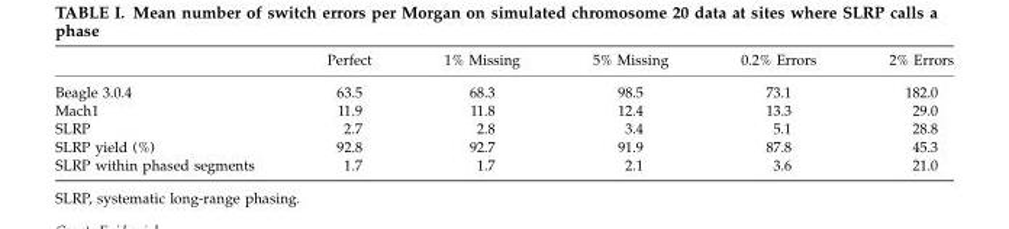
<table><thead><tr><td></td><td>Perfect</td><td>1% Missing</td><td>5% Missing</td><td>0.2% Errors</td><td>2% Errors</td></tr></thead><tbody><tr><td>Beagle 3.0.4</td><td>63.5</td><td>68.3</td><td>98.5</td><td>73.1</td><td>182.0</td></tr><tr><td>Mach1</td><td>11.9</td><td>11.8</td><td>12.4</td><td>13.3</td><td>29.0</td></tr><tr><td>SLRP</td><td>2.7</td><td>2.8</td><td>3.4</td><td>5.1</td><td>28.8</td></tr><tr><td>SLRP yield (%)</td><td>92.8</td><td>92.7</td><td>91.9</td><td>87.8</td><td>45.3</td></tr><tr><td>SLRP within phased segments</td><td>1.7</td><td>1.7</td><td>2.1</td><td>3.6</td><td>21.0</td></tr></tbody></table>